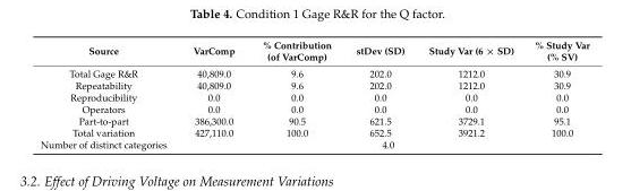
<table><thead><tr><td>Source</td><td>VarComp</td><td>% Contribution (of VarComp)</td><td>stDev (SD)</td><td>Study Var (6 × SD)</td><td>% Study Var (% SV)</td></tr></thead><tbody><tr><td>Total Gage R&amp;R</td><td>40,809.0</td><td>9.6</td><td>202.0</td><td>1212.0</td><td>30.9</td></tr><tr><td>Repeatability</td><td>40,809.0</td><td>9.6</td><td>202.0</td><td>1212.0</td><td>30.9</td></tr><tr><td>Reproducibility</td><td>0.0</td><td>0.0</td><td>0.0</td><td>0.0</td><td>0.0</td></tr><tr><td>Operators</td><td>0.0</td><td>0.0</td><td>0.0</td><td>0.0</td><td>0.0</td></tr><tr><td>Part-to-part</td><td>386,300.0</td><td>90.5</td><td>621.5</td><td>3729.1</td><td>95.1</td></tr><tr><td>Total variation</td><td>427,110.0</td><td>100.0</td><td>652.5</td><td>3921.2</td><td>100.0</td></tr><tr><td>Number of distinct categories</td><td colspan="5">4.0</td></tr></tbody></table>